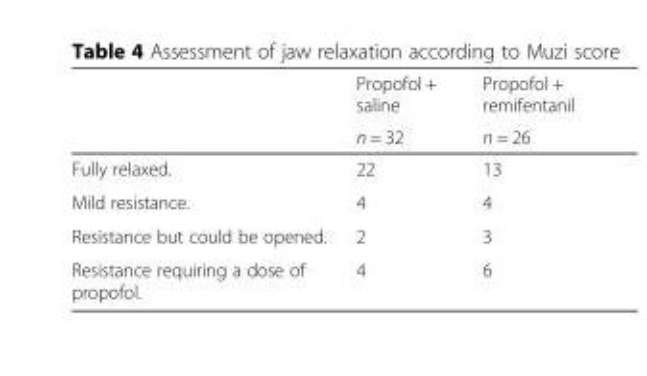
<table><thead><tr><td rowspan="2"></td><td rowspan="2">Propofol + saline n = 32</td><td rowspan="2">Propofol + remifentanil n = 26</td></tr><tr></tr></thead><tbody><tr><td>Fully relaxed.</td><td>22</td><td>13</td></tr><tr><td>Mild resistance.</td><td>4</td><td>4</td></tr><tr><td>Resistance but could be opened.</td><td>2</td><td>3</td></tr><tr><td>Resistance requiring a dose of propofol.</td><td>4</td><td>6</td></tr></tbody></table>